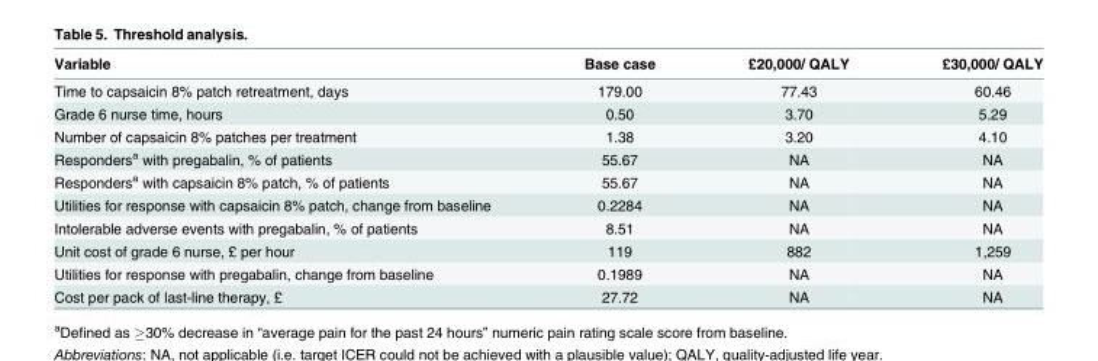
<table><thead><tr><td>Variable</td><td>Base case</td><td>£20,000/ QALY</td><td>£30,000/ QALY</td></tr></thead><tbody><tr><td>Time to capsaicin 8% patch retreatment, days</td><td>179.00</td><td>77.43</td><td>60.46</td></tr><tr><td>Grade 6 nurse time, hours</td><td>0.50</td><td>3.70</td><td>5.29</td></tr><tr><td>Number of capsaicin 8% patches per treatment</td><td>1.38</td><td>3.20</td><td>4.10</td></tr><tr><td>Responders<sup>a</sup> with pregabalin, % of patients</td><td>55.67</td><td>NA</td><td>NA</td></tr><tr><td>Responders<sup>a</sup> with capsaicin 8% patch, % of patients</td><td>55.67</td><td>NA</td><td>NA</td></tr><tr><td>Utilities for response with capsaicin 8% patch, change from baseline</td><td>0.2284</td><td>NA</td><td>NA</td></tr><tr><td>Intolerable adverse events with pregabalin, % of patients</td><td>8.51</td><td>NA</td><td>NA</td></tr><tr><td>Unit cost of grade 6 nurse, £ per hour</td><td>119</td><td>882</td><td>1,259</td></tr><tr><td>Utilities for response with pregabalin, change from baseline</td><td>0.1989</td><td>NA</td><td>NA</td></tr><tr><td>Cost per pack of last-line therapy, £</td><td>27.72</td><td>NA</td><td>NA</td></tr></tbody></table>